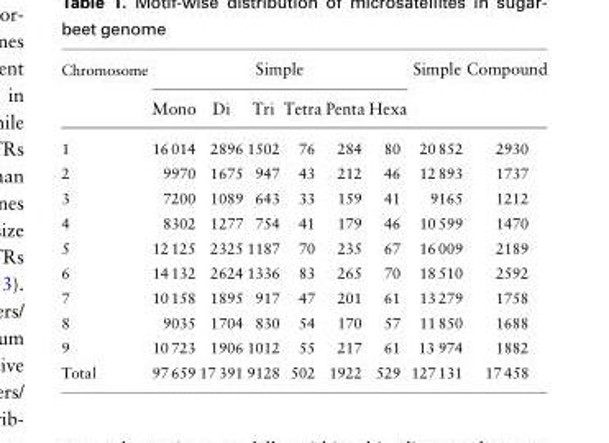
<table><thead><tr><td rowspan="2">Chromosome</td><td colspan="6">Simple</td><td rowspan="2">Simple</td><td rowspan="2">Compound</td></tr><tr><td>Mono</td><td>Di</td><td>Tri</td><td>Tetra</td><td>Penta</td><td>Hexa</td></tr></thead><tbody><tr><td>1</td><td>16 014</td><td>2896</td><td>1502</td><td>76</td><td>284</td><td>80</td><td>20 852</td><td>2930</td></tr><tr><td>2</td><td>9970</td><td>1675</td><td>947</td><td>43</td><td>212</td><td>46</td><td>12 893</td><td>1737</td></tr><tr><td>3</td><td>7200</td><td>1089</td><td>643</td><td>33</td><td>159</td><td>41</td><td>9165</td><td>1212</td></tr><tr><td>4</td><td>8302</td><td>1277</td><td>754</td><td>41</td><td>179</td><td>46</td><td>10 599</td><td>1470</td></tr><tr><td>5</td><td>12 125</td><td>2325</td><td>1187</td><td>70</td><td>235</td><td>67</td><td>16 009</td><td>2189</td></tr><tr><td>6</td><td>14 132</td><td>2624</td><td>1336</td><td>83</td><td>265</td><td>70</td><td>18 510</td><td>2592</td></tr><tr><td>7</td><td>10 158</td><td>1895</td><td>917</td><td>47</td><td>201</td><td>61</td><td>13 279</td><td>1758</td></tr><tr><td>8</td><td>9035</td><td>1704</td><td>830</td><td>54</td><td>170</td><td>57</td><td>11 850</td><td>1688</td></tr><tr><td>9</td><td>10 723</td><td>1906</td><td>1012</td><td>55</td><td>217</td><td>61</td><td>13 974</td><td>1882</td></tr><tr><td>Total</td><td>97 659</td><td>17 391</td><td>9128</td><td>502</td><td>1922</td><td>529</td><td>127 131</td><td>17 458</td></tr></tbody></table>